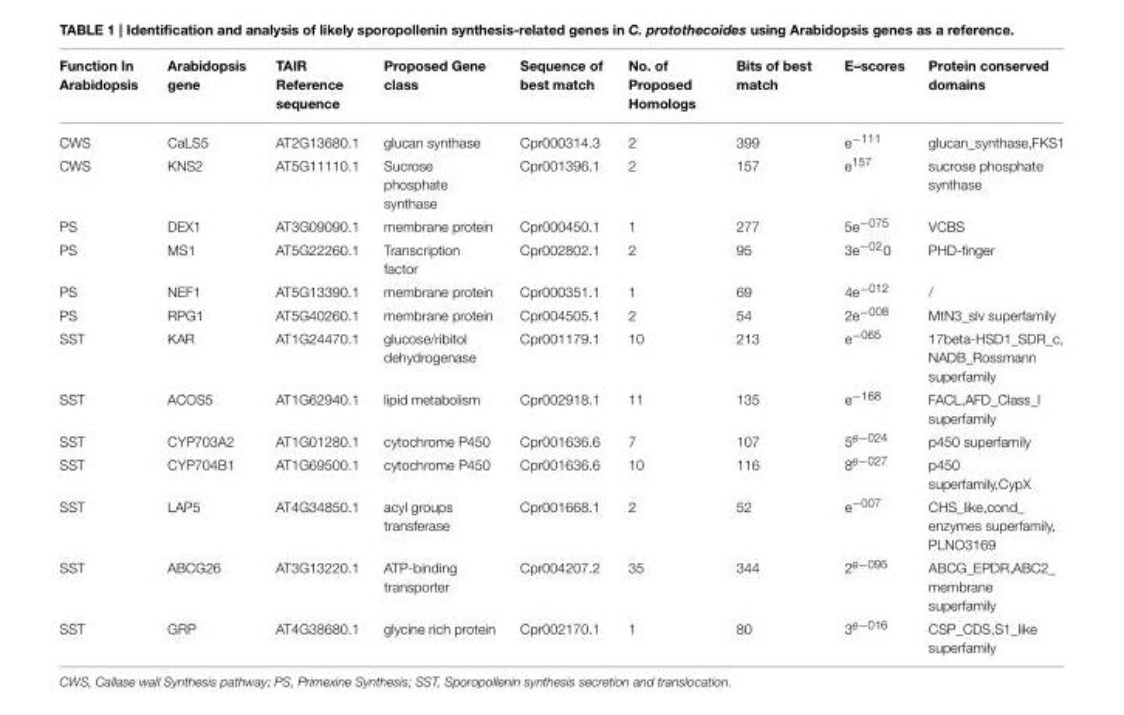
<table><thead><tr><td>Function In Arabidopsis</td><td>Arabidopsis gene</td><td>TAIR Reference sequence</td><td>Proposed Gene class</td><td>Sequence of best match</td><td>No. of Proposed Homologs</td><td>Bits of best match</td><td>E–scores</td><td>Protein conserved domains</td></tr></thead><tbody><tr><td>CWS</td><td>CaLS5</td><td>AT2G13680.1</td><td>glucan synthase</td><td>Cpr000314.3</td><td>2</td><td>399</td><td>e<sup>−111</sup></td><td>glucan_synthase,FKS1</td></tr><tr><td>CWS</td><td>KNS2</td><td>AT5G11110.1</td><td>Sucrose phosphate synthase</td><td>Cpr001396.1</td><td>2</td><td>157</td><td>e<sup>157</sup></td><td>sucrose phosphate synthase</td></tr><tr><td>PS</td><td>DEX1</td><td>AT3G09090.1</td><td>membrane protein</td><td>Cpr000450.1</td><td>1</td><td>277</td><td>5e<sup>−075</sup></td><td>VCBS</td></tr><tr><td>PS</td><td>MS1</td><td>AT5G22260.1</td><td>Transcription factor</td><td>Cpr002802.1</td><td>2</td><td>95</td><td>3e<sup>−02</sup>0</td><td>PHD-finger</td></tr><tr><td>PS</td><td>NEF1</td><td>AT5G13390.1</td><td>membrane protein</td><td>Cpr000351.1</td><td>1</td><td>69</td><td>4e<sup>−012</sup></td><td>/</td></tr><tr><td>PS</td><td>RPG1</td><td>AT5G40260.1</td><td>membrane protein</td><td>Cpr004505.1</td><td>2</td><td>54</td><td>2e<sup>−008</sup></td><td>MtN3_slv superfamily</td></tr><tr><td>SST</td><td>KAR</td><td>AT1G24470.1</td><td>glucose/ribitol dehydrogenase</td><td>Cpr001179.1</td><td>10</td><td>213</td><td>e<sup>−065</sup></td><td>17beta-HSD1_SDR_c, NADB_Rossmann superfamily</td></tr><tr><td>SST</td><td>ACOS5</td><td>AT1G62940.1</td><td>lipid metabolism</td><td>Cpr002918.1</td><td>11</td><td>135</td><td>e<sup>−168</sup></td><td>FACL,AFD_Class_I superfamily</td></tr><tr><td>SST</td><td>CYP703A2</td><td>AT1G01280.1</td><td>cytochrome P450</td><td>Cpr001636.6</td><td>7</td><td>107</td><td>5<sup>e−024</sup></td><td>p450 superfamily</td></tr><tr><td>SST</td><td>CYP704B1</td><td>AT1G69500.1</td><td>cytochrome P450</td><td>Cpr001636.6</td><td>10</td><td>116</td><td>8<sup>e−027</sup></td><td>p450 superfamily,CypX</td></tr><tr><td>SST</td><td>LAP5</td><td>AT4G34850.1</td><td>acyl groups transferase</td><td>Cpr001668.1</td><td>2</td><td>52</td><td>e<sup>−007</sup></td><td>CHS_like,cond_ enzymes superfamily, PLNO3169</td></tr><tr><td>SST</td><td>ABCG26</td><td>AT3G13220.1</td><td>ATP-binding transporter</td><td>Cpr004207.2</td><td>35</td><td>344</td><td>2<sup>e−095</sup></td><td>ABCG_EPDR,ABC2_ membrane superfamily</td></tr><tr><td>SST</td><td>GRP</td><td>AT4G38680.1</td><td>glycine rich protein</td><td>Cpr002170.1</td><td>1</td><td>80</td><td>3<sup>e−016</sup></td><td>CSP_CDS,S1_like superfamily</td></tr></tbody></table>